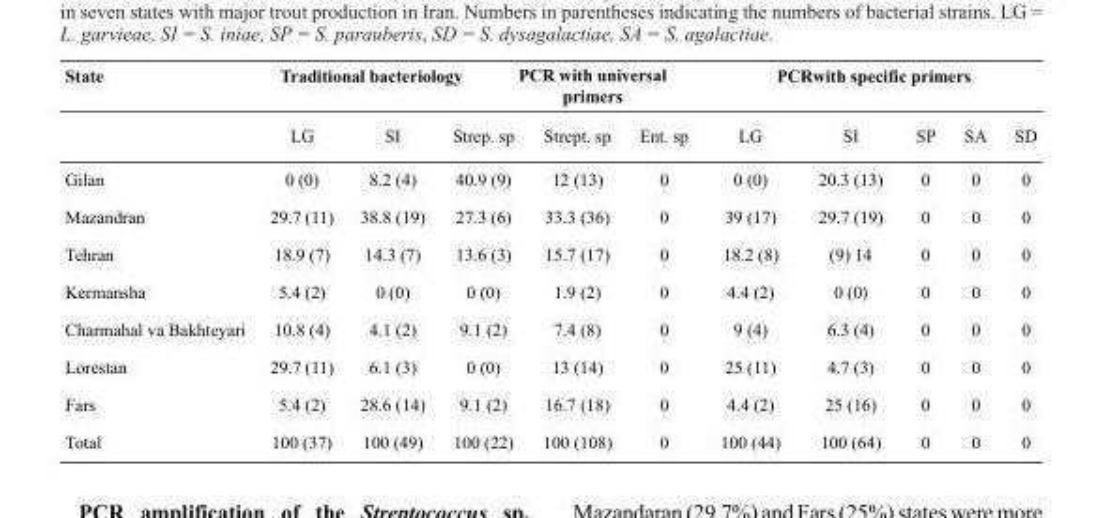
<table><thead><tr><td rowspan="2">State</td><td colspan="3">Traditional bacteriology</td><td colspan="2">pCR with universal primers</td><td colspan="5">pCRwith specific primers</td></tr><tr><td>LG</td><td>SI</td><td>Strep. sp</td><td>Strept. sp</td><td>Ent. sp</td><td>LG</td><td>SI</td><td>SP</td><td>SA</td><td>SD</td></tr></thead><tbody><tr><td>Gilan</td><td>0 (0)</td><td>8.2 (4)</td><td>40.9 (9)</td><td>12 (13)</td><td>0</td><td>0 (0)</td><td>20.3 (13)</td><td>0</td><td>0</td><td>0</td></tr><tr><td>Mazandran</td><td>29.7 (11)</td><td>38.8 (19)</td><td>27.3 (6)</td><td>33.3 (36)</td><td>0</td><td>39 (17)</td><td>29.7 (19)</td><td>0</td><td>0</td><td>0</td></tr><tr><td>Tehran</td><td>18.9 (7)</td><td>14.3 (7)</td><td>13.6 (3)</td><td>15.7 (17)</td><td>0</td><td>18.2 (8)</td><td>(9) 14</td><td>0</td><td>0</td><td>0</td></tr><tr><td>Kermansha</td><td>5.4 (2)</td><td>0 (0)</td><td>0 (0)</td><td>1.9 (2)</td><td>0</td><td>4.4 (2)</td><td>0 (0)</td><td>0</td><td>0</td><td>0</td></tr><tr><td>Charmahal va Bakhteyari</td><td>10.8 (4)</td><td>4.1 (2)</td><td>9.1 (2)</td><td>7.4 (8)</td><td>0</td><td>9 (4)</td><td>6.3 (4)</td><td>0</td><td>0</td><td>0</td></tr><tr><td>Lorestan</td><td>29.7 (11)</td><td>6.1 (3)</td><td>0 (0)</td><td>13 (14)</td><td>0</td><td>25 (11)</td><td>4.7 (3)</td><td>0</td><td>0</td><td>0</td></tr><tr><td>Fars</td><td>5.4 (2)</td><td>28.6 (14)</td><td>9.1 (2)</td><td>16.7 (18)</td><td>0</td><td>4.4 (2)</td><td>25 (16)</td><td>0</td><td>0</td><td>0</td></tr><tr><td>Total</td><td>100 (37)</td><td>100 (49)</td><td>100 (22)</td><td>100 (108)</td><td>0</td><td>100 (44)</td><td>100 (64)</td><td>0</td><td>0</td><td>0</td></tr></tbody></table>